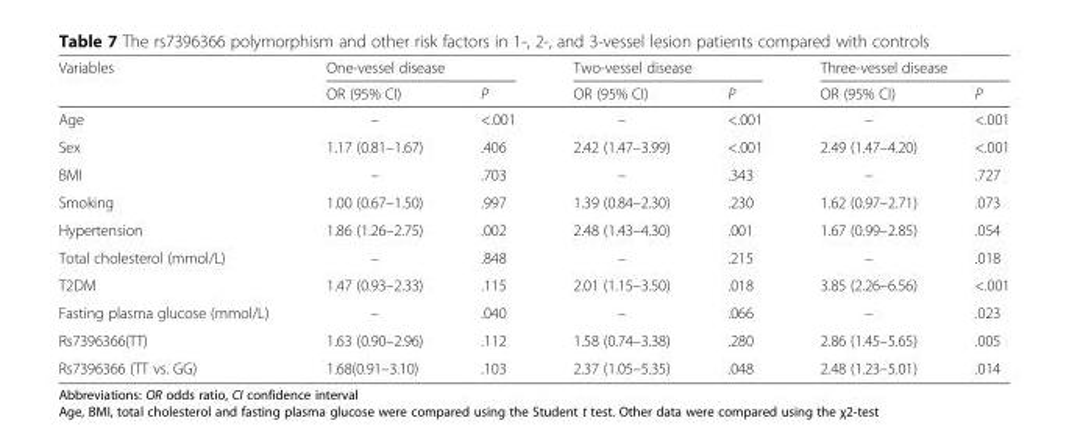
<table><thead><tr><td rowspan="2">Variables</td><td colspan="2">One-vessel disease</td><td colspan="2">Two-vessel disease</td><td colspan="2">Three-vessel disease</td></tr><tr><td>OR (95% CI)</td><td>P</td><td>OR (95% CI)</td><td>P</td><td>OR (95% CI)</td><td>P</td></tr></thead><tbody><tr><td>Age</td><td>–</td><td>&lt;.001</td><td>–</td><td>&lt;.001</td><td>–</td><td>&lt;.001</td></tr><tr><td>Sex</td><td>1.17 (0.81–1.67)</td><td>.406</td><td>2.42 (1.47–3.99)</td><td>&lt;.001</td><td>2.49 (1.47–4.20)</td><td>&lt;.001</td></tr><tr><td>BMI</td><td>–</td><td>.703</td><td>–</td><td>.343</td><td>–</td><td>.727</td></tr><tr><td>Smoking</td><td>1.00 (0.67–1.50)</td><td>.997</td><td>1.39 (0.84–2.30)</td><td>.230</td><td>1.62 (0.97–2.71)</td><td>.073</td></tr><tr><td>Hypertension</td><td>1.86 (1.26–2.75)</td><td>.002</td><td>2.48 (1.43–4.30)</td><td>.001</td><td>1.67 (0.99–2.85)</td><td>.054</td></tr><tr><td>Total cholesterol (mmol/L)</td><td>–</td><td>.848</td><td>–</td><td>.215</td><td>–</td><td>.018</td></tr><tr><td>T2DM</td><td>1.47 (0.93–2.33)</td><td>.115</td><td>2.01 (1.15–3.50)</td><td>.018</td><td>3.85 (2.26–6.56)</td><td>&lt;.001</td></tr><tr><td>Fasting plasma glucose (mmol/L)</td><td>–</td><td>.040</td><td>–</td><td>.066</td><td>–</td><td>.023</td></tr><tr><td>Rs7396366(TT)</td><td>1.63 (0.90–2.96)</td><td>.112</td><td>1.58 (0.74–3.38)</td><td>.280</td><td>2.86 (1.45–5.65)</td><td>.005</td></tr><tr><td>Rs7396366 (TT vs. GG)</td><td>1.68(0.91–3.10)</td><td>.103</td><td>2.37 (1.05–5.35)</td><td>.048</td><td>2.48 (1.23–5.01)</td><td>.014</td></tr></tbody></table>